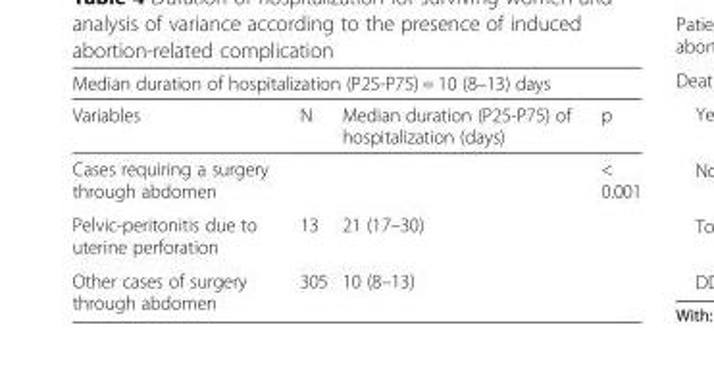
<table><thead><tr><td colspan="4">Median duration of hospitalization (P25-P75) = 10 (8–13) days</td></tr><tr><td>Variables</td><td>N</td><td>Median duration (P25-P75) of hospitalization (days)</td><td>p</td></tr></thead><tbody><tr><td>Cases requiring a surgery through abdomen</td><td></td><td></td><td>&lt; 0.001</td></tr><tr><td>Pelvic-peritonitis due to uterine perforation</td><td>13</td><td>21 (17–30)</td><td></td></tr><tr><td>Other cases of surgery through abdomen</td><td>305</td><td>10 (8–13)</td><td></td></tr></tbody></table>